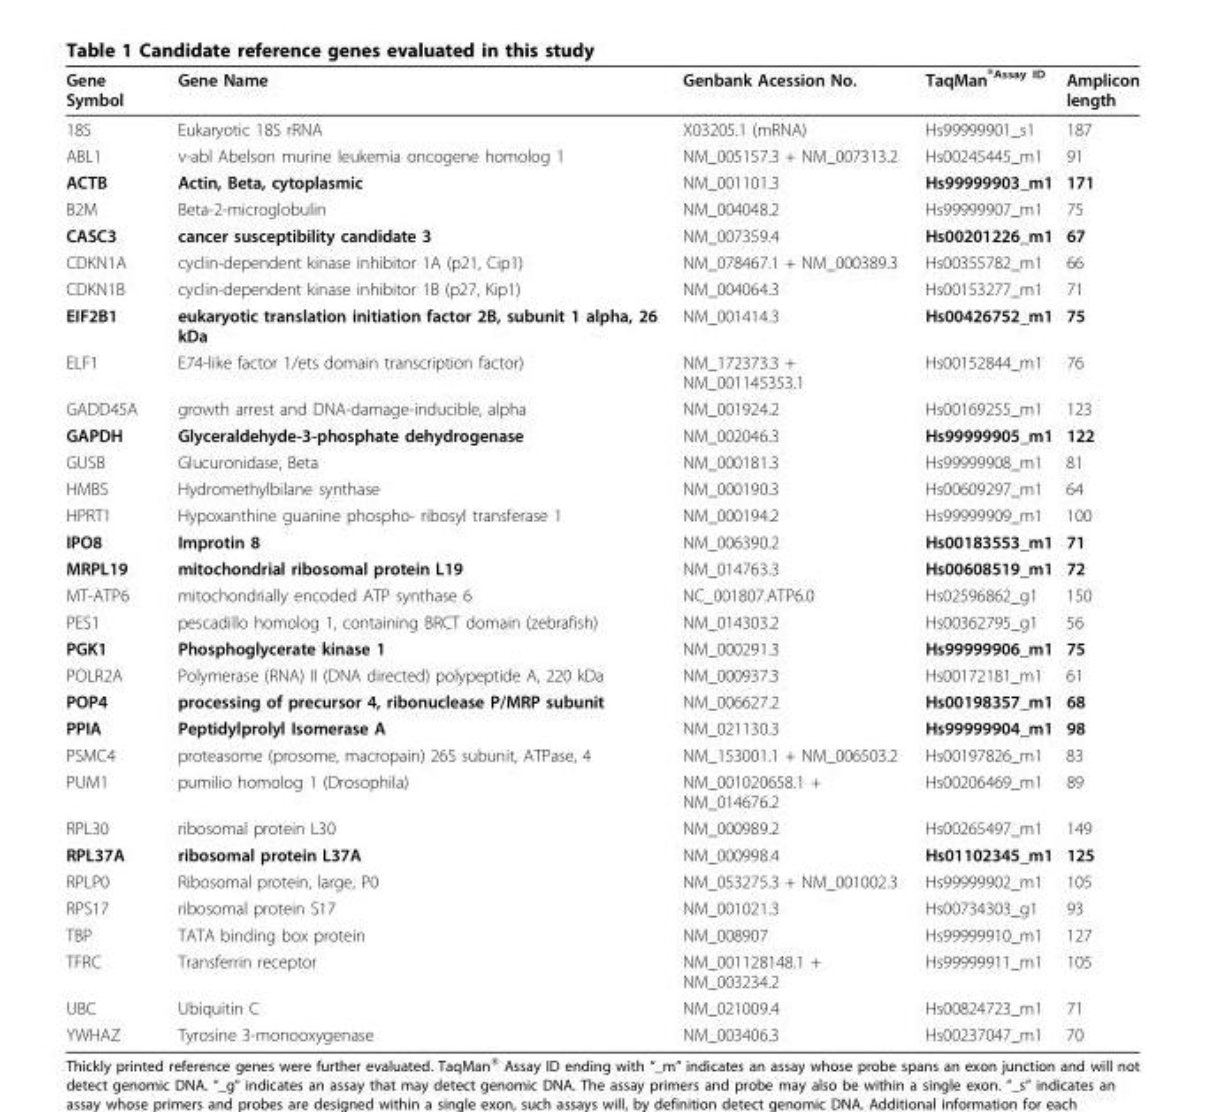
<table><thead><tr><td>Gene Symbol</td><td>Gene Name</td><td>Genbank Acession No.</td><td>TaqMan <sup>®</sup>Assay ID</td><td>Amplicon length</td></tr></thead><tbody><tr><td>18S</td><td>Eukaryotic 18S rRNA</td><td>X03205.1 (mRNA)</td><td>Hs99999901_s1</td><td>187</td></tr><tr><td>ABL1</td><td>v-abl Abelson murine leukemia oncogene homolog 1</td><td>NM_005157.3 + NM_007313.2</td><td>Hs00245445_m1</td><td>91</td></tr><tr><td>ACTB</td><td>Actin, Beta, cytoplasmic</td><td>NM_001101.3</td><td>Hs99999903_m1</td><td>171</td></tr><tr><td>B2M</td><td>Beta-2-microglobulin</td><td>NM_004048.2</td><td>Hs99999907_m1</td><td>75</td></tr><tr><td>CASC3</td><td>cancer susceptibility candidate 3</td><td>NM_007359.4</td><td>Hs00201226_m1</td><td>67</td></tr><tr><td>CDKN1A</td><td>cyclin-dependent kinase inhibitor 1A (p21, Cip1)</td><td>NM_078467.1 + NM_000389.3</td><td>Hs00355782_m1</td><td>66</td></tr><tr><td>CDKN1B</td><td>cyclin-dependent kinase inhibitor 1B (p27, Kip1)</td><td>NM_004064.3</td><td>Hs00153277_m1</td><td>71</td></tr><tr><td>EIF2B1</td><td>eukaryotic translation initiation factor 2B, subunit 1 alpha, 26 kDa</td><td>NM_001414.3</td><td>Hs00426752_m1</td><td>75</td></tr><tr><td>ELF1</td><td>E74-like factor 1/ets domain transcription factor)</td><td>NM_172373.3 + NM_001145353.1</td><td>Hs00152844_m1</td><td>76</td></tr><tr><td>GADD45A</td><td>growth arrest and DNA-damage-inducible, alpha</td><td>NM_001924.2</td><td>Hs00169255_m1</td><td>123</td></tr><tr><td>GAPDH</td><td>Glyceraldehyde-3-phosphate dehydrogenase</td><td>NM_002046.3</td><td>Hs99999905_m1</td><td>122</td></tr><tr><td>GUSB</td><td>Glucuronidase, Beta</td><td>NM_000181.3</td><td>Hs99999908_m1</td><td>81</td></tr><tr><td>HMBS</td><td>Hydromethylbilane synthase</td><td>NM_000190.3</td><td>Hs00609297_m1</td><td>64</td></tr><tr><td>HPRT1</td><td>Hypoxanthine guanine phospho- ribosyl transferase 1</td><td>NM_000194.2</td><td>Hs99999909_m1</td><td>100</td></tr><tr><td>IPO8</td><td>Improtin 8</td><td>NM_006390.2</td><td>Hs00183553_m1</td><td>71</td></tr><tr><td>MRPL19</td><td>mitochondrial ribosomal protein L19</td><td>NM_014763.3</td><td>Hs00608519_m1</td><td>72</td></tr><tr><td>MT-ATP6</td><td>mitochondrially encoded ATP synthase 6</td><td>NC_001807.ATP6.0</td><td>Hs02596862_g1</td><td>150</td></tr><tr><td>PES1</td><td>pescadillo homolog 1, containing BRCT domain (zebrafish)</td><td>NM_014303.2</td><td>Hs00362795_g1</td><td>56</td></tr><tr><td>PGK1</td><td>Phosphoglycerate kinase 1</td><td>NM_000291.3</td><td>Hs99999906_m1</td><td>75</td></tr><tr><td>POLR2A</td><td>Polymerase (RNA) II (DNA directed) polypeptide A, 220 kDa</td><td>NM_000937.3</td><td>Hs00172181_m1</td><td>61</td></tr><tr><td>POP4</td><td>processing of precursor 4, ribonuclease P/MRP subunit</td><td>NM_006627.2</td><td>Hs00198357_m1</td><td>68</td></tr><tr><td>PPIA</td><td>Peptidylprolyl Isomerase A</td><td>NM_021130.3</td><td>Hs99999904_m1</td><td>98</td></tr><tr><td>PSMC4</td><td>proteasome (prosome, macropain) 26S subunit, ATPase, 4</td><td>NM_153001.1 + NM_006503.2</td><td>Hs00197826_m1</td><td>83</td></tr><tr><td>PUM1</td><td>pumilio homolog 1 (Drosophila)</td><td>NM_001020658.1 + NM_014676.2</td><td>Hs00206469_m1</td><td>89</td></tr><tr><td>RPL30</td><td>ribosomal protein L30</td><td>NM_000989.2</td><td>Hs00265497_m1</td><td>149</td></tr><tr><td>RPL37A</td><td>ribosomal protein L37A</td><td>NM_000998.4</td><td>Hs01102345_m1</td><td>125</td></tr><tr><td>RPLP0</td><td>Ribosomal protein, large, P0</td><td>NM_053275.3 + NM_001002.3</td><td>Hs99999902_m1</td><td>105</td></tr><tr><td>RPS17</td><td>ribosomal protein S17</td><td>NM_001021.3</td><td>Hs00734303_g1</td><td>93</td></tr><tr><td>TBP</td><td>TATA binding box protein</td><td>NM_008907</td><td>Hs99999910_m1</td><td>127</td></tr><tr><td>TFRC</td><td>Transferrin receptor</td><td>NM_001128148.1 + NM_003234.2</td><td>Hs99999911_m1</td><td>105</td></tr><tr><td>UBC</td><td>Ubiquitin C</td><td>NM_021009.4</td><td>Hs00824723_m1</td><td>71</td></tr><tr><td>YWHAZ</td><td>Tyrosine 3-monooxygenase</td><td>NM_003406.3</td><td>Hs00237047_m1</td><td>70</td></tr></tbody></table>